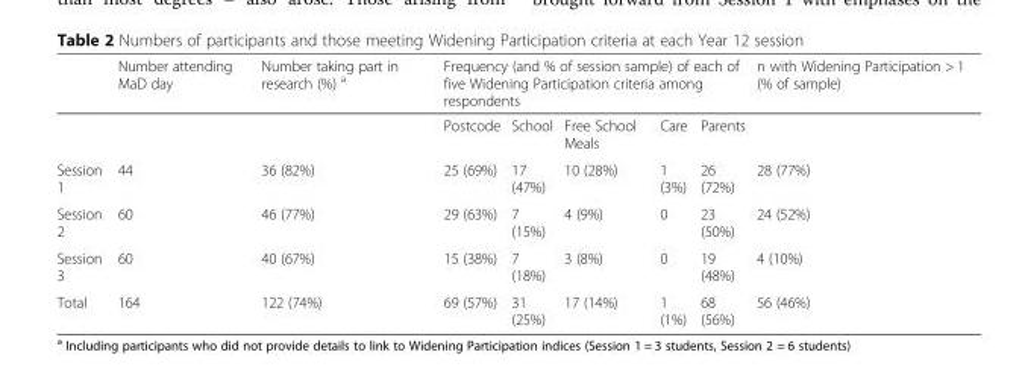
<table><thead><tr><td rowspan="2"></td><td rowspan="2">Number attending MaD day</td><td rowspan="2">Number taking part in research (%) <sup>a</sup></td><td colspan="5">Frequency (and % of session sample) of each of five Widening Participation criteria among respondents</td><td rowspan="2">n with Widening Participation &gt; 1 (% of sample)</td></tr><tr><td>Postcode</td><td>School</td><td>Free School Meals</td><td>Care</td><td>Parents</td></tr></thead><tbody><tr><td>Session 1</td><td>44</td><td>36 (82%)</td><td>25 (69%)</td><td>17 (47%)</td><td>10 (28%)</td><td>1 (3%)</td><td>26 (72%)</td><td>28 (77%)</td></tr><tr><td>Session 2</td><td>60</td><td>46 (77%)</td><td>29 (63%)</td><td>7 (15%)</td><td>4 (9%)</td><td>0</td><td>23 (50%)</td><td>24 (52%)</td></tr><tr><td>Session 3</td><td>60</td><td>40 (67%)</td><td>15 (38%)</td><td>7 (18%)</td><td>3 (8%)</td><td>0</td><td>19 (48%)</td><td>4 (10%)</td></tr><tr><td>Total</td><td>164</td><td>122 (74%)</td><td>69 (57%)</td><td>31 (25%)</td><td>17 (14%)</td><td>1 (1%)</td><td>68 (56%)</td><td>56 (46%)</td></tr></tbody></table>